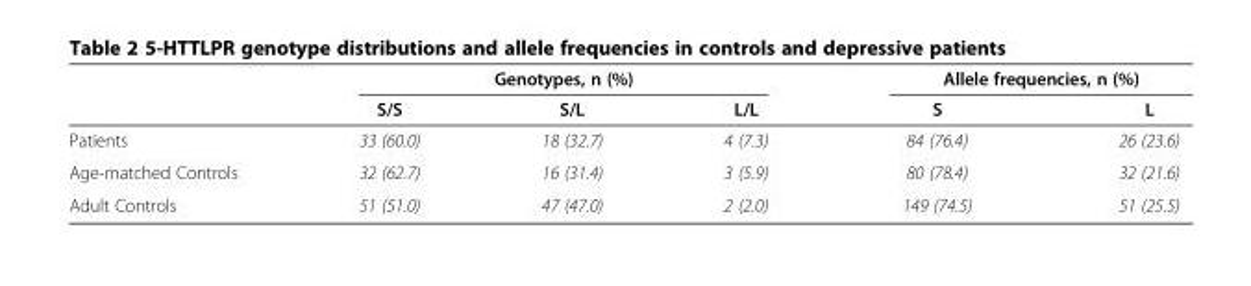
<table><thead><tr><td rowspan="2"></td><td colspan="3">Genotypes, n (%)</td><td colspan="2">Allele frequencies, n (%)</td></tr><tr><td>S/S</td><td>S/L</td><td>L/L</td><td>S</td><td>L</td></tr></thead><tbody><tr><td>Patients</td><td>33 (60.0)</td><td>18 (32.7)</td><td>4 (7.3)</td><td>84 (76.4)</td><td>26 (23.6)</td></tr><tr><td>Age-matched Controls</td><td>32 (62.7)</td><td>16 (31.4)</td><td>3 (5.9)</td><td>80 (78.4)</td><td>32 (21.6)</td></tr><tr><td>Adult Controls</td><td>51 (51.0)</td><td>47 (47.0)</td><td>2 (2.0)</td><td>149 (74.5)</td><td>51 (25.5)</td></tr></tbody></table>